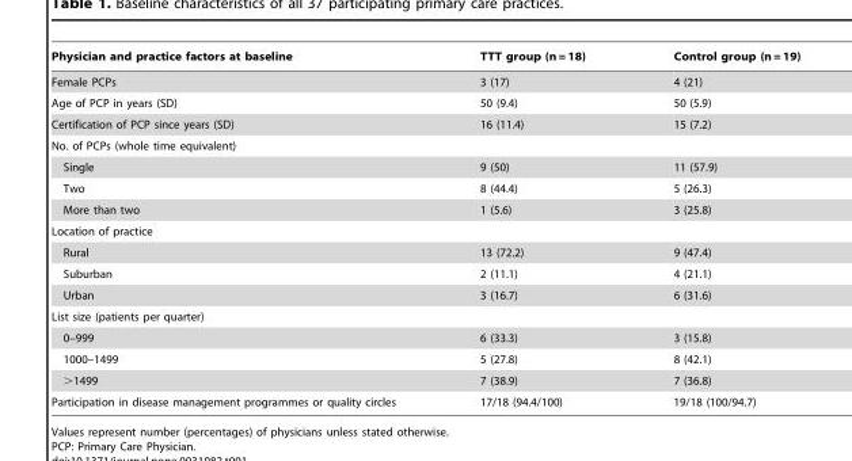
<table><thead><tr><td>Physician and practice factors at baseline</td><td>TTT group (n = 18)</td><td>Control group (n = 19)</td></tr></thead><tbody><tr><td>Female PCPs</td><td>3 (17)</td><td>4 (21)</td></tr><tr><td>Age of PCP in years (SD)</td><td>50 (9.4)</td><td>50 (5.9)</td></tr><tr><td>Certification of PCP since years (SD)</td><td>16 (11.4)</td><td>15 (7.2)</td></tr><tr><td colspan="3">No. of PCPs (whole time equivalent)</td></tr><tr><td>Single</td><td>9 (50)</td><td>11 (57.9)</td></tr><tr><td>Two</td><td>8 (44.4)</td><td>5 (26.3)</td></tr><tr><td>More than two</td><td>1 (5.6)</td><td>3 (25.8)</td></tr><tr><td colspan="3">Location of practice</td></tr><tr><td>Rural</td><td>13 (72.2)</td><td>9 (47.4)</td></tr><tr><td>Suburban</td><td>2 (11.1)</td><td>4 (21.1)</td></tr><tr><td>Urban</td><td>3 (16.7)</td><td>6 (31.6)</td></tr><tr><td colspan="3">List size (patients per quarter)</td></tr><tr><td>0–999</td><td>6 (33.3)</td><td>3 (15.8)</td></tr><tr><td>1000–1499</td><td>5 (27.8)</td><td>8 (42.1)</td></tr><tr><td>&gt;1499</td><td>7 (38.9)</td><td>7 (36.8)</td></tr><tr><td>Participation in disease management programmes or quality circles</td><td>17/18 (94.4/100)</td><td>19/18 (100/94.7)</td></tr></tbody></table>